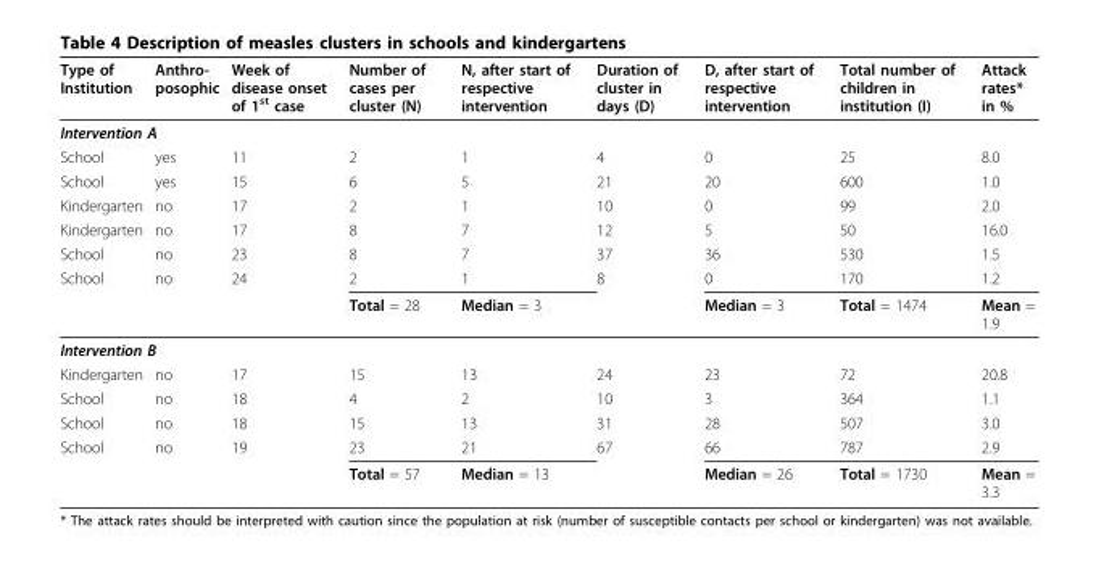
<table><thead><tr><td>Type of Institution</td><td>Anthro- posophic</td><td>Week of disease onset of 1<sup>st</sup> case</td><td>Number of cases per cluster (N)</td><td>N, after start of respective intervention</td><td>Duration of cluster in days (D)</td><td>D, after start of respective intervention</td><td>Total number of children in institution (I)</td><td>Attack rates* in %</td></tr></thead><tbody><tr><td colspan="9">Intervention A</td></tr><tr><td>School</td><td>yes</td><td>11</td><td>2</td><td>1</td><td>4</td><td>0</td><td>25</td><td>8.0</td></tr><tr><td>School</td><td>yes</td><td>15</td><td>6</td><td>5</td><td>21</td><td>20</td><td>600</td><td>1.0</td></tr><tr><td>Kindergarten</td><td>no</td><td>17</td><td>2</td><td>1</td><td>10</td><td>0</td><td>99</td><td>2.0</td></tr><tr><td>Kindergarten</td><td>no</td><td>17</td><td>8</td><td>7</td><td>12</td><td>5</td><td>50</td><td>16.0</td></tr><tr><td>School</td><td>no</td><td>23</td><td>8</td><td>7</td><td>37</td><td>36</td><td>530</td><td>1.5</td></tr><tr><td rowspan="2">School</td><td>no</td><td>24</td><td>2</td><td>1</td><td>8</td><td>0</td><td>170</td><td>1.2</td></tr><tr><td></td><td></td><td>Total = 28</td><td>Median = 3</td><td></td><td>Median = 3</td><td>Total = 1474</td><td>Mean = 1.9</td></tr><tr><td colspan="9">Intervention B</td></tr><tr><td>Kindergarten</td><td>no</td><td>17</td><td>15</td><td>13</td><td>24</td><td>23</td><td>72</td><td>20.8</td></tr><tr><td>School</td><td>no</td><td>18</td><td>4</td><td>2</td><td>10</td><td>3</td><td>364</td><td>1.1</td></tr><tr><td>School</td><td>no</td><td>18</td><td>15</td><td>13</td><td>31</td><td>28</td><td>507</td><td>3.0</td></tr><tr><td rowspan="2">School</td><td>no</td><td>19</td><td>23</td><td>21</td><td>67</td><td>66</td><td>787</td><td>2.9</td></tr><tr><td></td><td></td><td>Total = 57</td><td>Median = 13</td><td></td><td>Median = 26</td><td>Total = 1730</td><td>Mean = 3.3</td></tr></tbody></table>